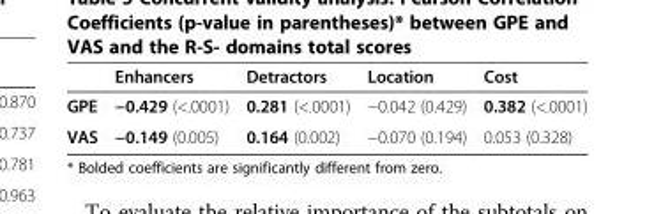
<table><thead><tr><td></td><td>Enhancers</td><td>Detractors</td><td>Location</td><td>Cost</td></tr></thead><tbody><tr><td>GPE</td><td>−0.429 (&lt;.0001)</td><td>0.281 (&lt;.0001)</td><td>−0.042 (0.429)</td><td>0.382 (&lt;.0001)</td></tr><tr><td>VAS</td><td>−0.149 (0.005)</td><td>0.164 (0.002)</td><td>−0.070 (0.194)</td><td>0.053 (0.328)</td></tr></tbody></table>